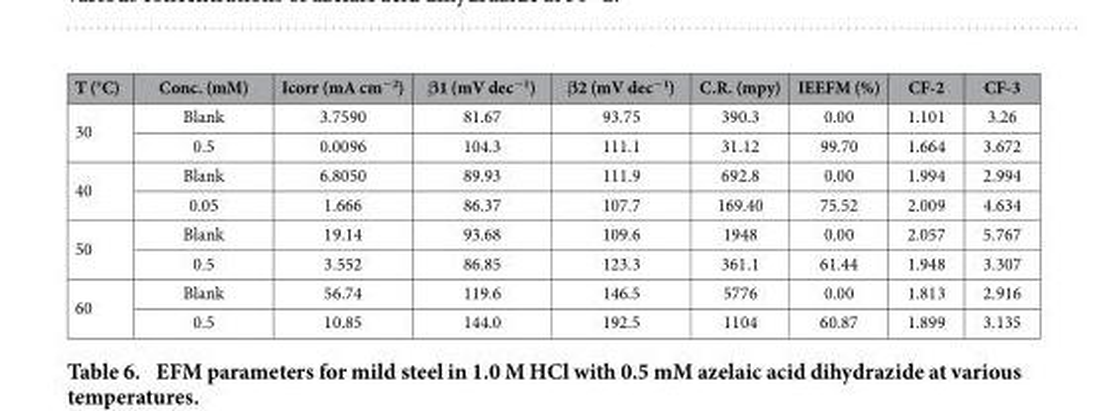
<table><thead><tr><td>T (°C)</td><td>Conc. (mM)</td><td>Icorr (mA cm<sup>−2</sup>)</td><td>β1 (mV dec<sup>−1</sup>)</td><td>β2 (mV dec<sup>−1</sup>)</td><td>C.R. (mpy)</td><td>IEEFM (%)</td><td>CF-2</td><td>CF-3</td></tr></thead><tbody><tr><td rowspan="2">30</td><td>Blank</td><td>3.7590</td><td>81.67</td><td>93.75</td><td>390.3</td><td>0.00</td><td>1.101</td><td>3.26</td></tr><tr><td>0.5</td><td>0.0096</td><td>104.3</td><td>111.1</td><td>31.12</td><td>99.70</td><td>1.664</td><td>3.672</td></tr><tr><td rowspan="2">40</td><td>Blank</td><td>6.8050</td><td>89.93</td><td>111.9</td><td>692.8</td><td>0.00</td><td>1.994</td><td>2.994</td></tr><tr><td>0.05</td><td>1.666</td><td>86.37</td><td>107.7</td><td>169.40</td><td>75.52</td><td>2.009</td><td>4.634</td></tr><tr><td rowspan="2">50</td><td>Blank</td><td>19.14</td><td>93.68</td><td>109.6</td><td>1948</td><td>0.00</td><td>2.057</td><td>5.767</td></tr><tr><td>0.5</td><td>3.552</td><td>86.85</td><td>123.3</td><td>361.1</td><td>61.44</td><td>1.948</td><td>3.307</td></tr><tr><td rowspan="2">60</td><td>Blank</td><td>56.74</td><td>119.6</td><td>146.5</td><td>5776</td><td>0.00</td><td>1.813</td><td>2.916</td></tr><tr><td>0.5</td><td>10.85</td><td>144.0</td><td>192.5</td><td>1104</td><td>60.87</td><td>1.899</td><td>3.135</td></tr></tbody></table>